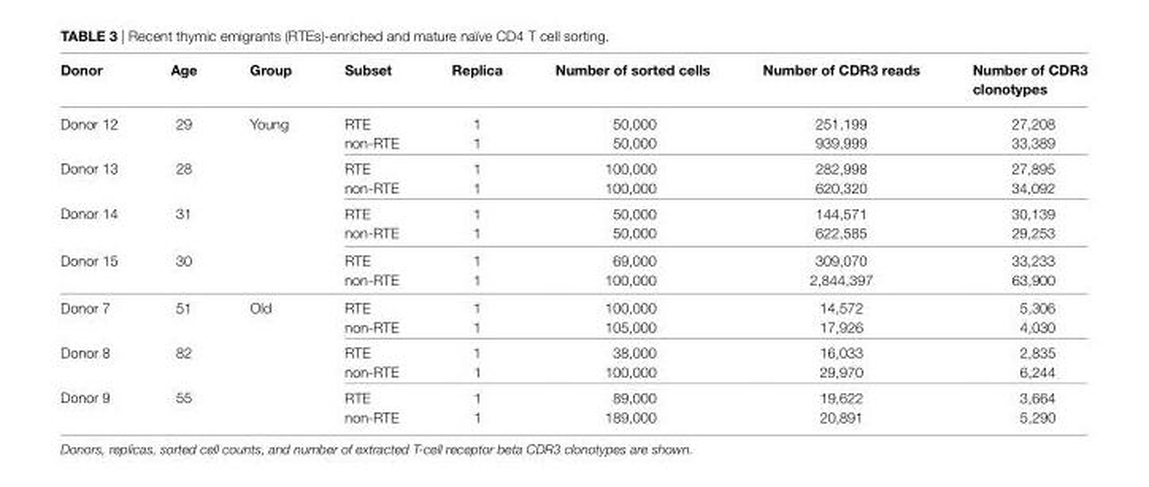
<table><thead><tr><td>Donor</td><td>age</td><td>group</td><td>subset</td><td>replica</td><td>number of sorted cells</td><td>number of cDr3 reads</td><td>number of cDr3 clonotypes</td></tr></thead><tbody><tr><td rowspan="2">Donor 12</td><td>29</td><td>Young</td><td>RTE</td><td>1</td><td>50,000</td><td>251,199</td><td>27,208</td></tr><tr><td></td><td></td><td>non-RTE</td><td>1</td><td>50,000</td><td>939,999</td><td>33,389</td></tr><tr><td rowspan="2">Donor 13</td><td>28</td><td></td><td>RTE</td><td>1</td><td>100,000</td><td>282,998</td><td>27,895</td></tr><tr><td></td><td></td><td>non-RTE</td><td>1</td><td>100,000</td><td>620,320</td><td>34,092</td></tr><tr><td rowspan="2">Donor 14</td><td>31</td><td></td><td>RTE</td><td>1</td><td>50,000</td><td>144,571</td><td>30,139</td></tr><tr><td></td><td></td><td>non-RTE</td><td>1</td><td>50,000</td><td>622,585</td><td>29,253</td></tr><tr><td rowspan="2">Donor 15</td><td>30</td><td></td><td>RTE</td><td>1</td><td>69,000</td><td>309,070</td><td>33,233</td></tr><tr><td></td><td></td><td>non-RTE</td><td>1</td><td>100,000</td><td>2,844,397</td><td>63,900</td></tr><tr><td rowspan="2">Donor 7</td><td>51</td><td>Old</td><td>RTE</td><td>1</td><td>100,000</td><td>14,572</td><td>5,306</td></tr><tr><td></td><td></td><td>non-RTE</td><td>1</td><td>105,000</td><td>17,926</td><td>4,030</td></tr><tr><td rowspan="2">Donor 8</td><td>82</td><td></td><td>RTE</td><td>1</td><td>38,000</td><td>16,033</td><td>2,835</td></tr><tr><td></td><td></td><td>non-RTE</td><td>1</td><td>100,000</td><td>29,970</td><td>6,244</td></tr><tr><td rowspan="2">Donor 9</td><td>55</td><td></td><td>RTE</td><td>1</td><td>89,000</td><td>19,622</td><td>3,664</td></tr><tr><td></td><td></td><td>non-RTE</td><td>1</td><td>189,000</td><td>20,891</td><td>5,290</td></tr></tbody></table>